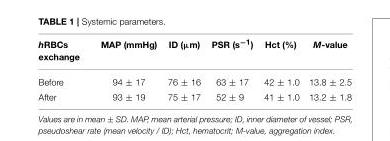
<table><thead><tr><td>hRBCs exchange</td><td>MAP (mmHg)</td><td>ID (µm)</td><td>PSR (s<sup>−1</sup>)</td><td>Hct (%)</td><td>M-value</td></tr></thead><tbody><tr><td>Before</td><td>94 ± 17</td><td>76 ± 16</td><td>63 ± 17</td><td>42 ± 1.0</td><td>13.8 ± 2.5</td></tr><tr><td>After</td><td>93 ± 19</td><td>75 ± 17</td><td>52 ± 9</td><td>41 ± 1.0</td><td>13.2 ± 1.8</td></tr></tbody></table>